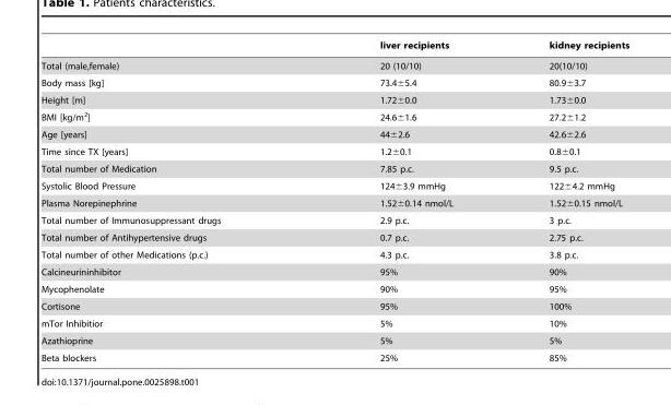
<table><thead><tr><td></td><td>liver recipients</td><td>kidney recipients</td></tr></thead><tbody><tr><td>Total (male,female)</td><td>20 (10/10)</td><td>20(10/10)</td></tr><tr><td>Body mass [kg]</td><td>73.4±5.4</td><td>80.9±3.7</td></tr><tr><td>Height [m]</td><td>1.72±0.0</td><td>1.73±0.0</td></tr><tr><td>BMI [kg/m<sup>2</sup>]</td><td>24.6±1.6</td><td>27.2±1.2</td></tr><tr><td>Age [years]</td><td>44±2.6</td><td>42.6±2.6</td></tr><tr><td>Time since TX [years]</td><td>1.2±0.1</td><td>0.8±0.1</td></tr><tr><td>Total number of Medication</td><td>7.85 p.c.</td><td>9.5 p.c.</td></tr><tr><td>Systolic Blood Pressure</td><td>124±3.9 mmHg</td><td>122±4.2 mmHg</td></tr><tr><td>Plasma Norepinephrine</td><td>1.52±0.14 nmol/L</td><td>1.52±0.15 nmol/L</td></tr><tr><td>Total number of Immunosuppressant drugs</td><td>2.9 p.c.</td><td>3 p.c.</td></tr><tr><td>Total number of Antihypertensive drugs</td><td>0.7 p.c.</td><td>2.75 p.c.</td></tr><tr><td>Total number of other Medications (p.c.)</td><td>4.3 p.c.</td><td>3.8 p.c.</td></tr><tr><td>Calcineurininhibitor</td><td>95%</td><td>90%</td></tr><tr><td>Mycophenolate</td><td>90%</td><td>95%</td></tr><tr><td>Cortisone</td><td>95%</td><td>100%</td></tr><tr><td>mTor Inhibitior</td><td>5%</td><td>10%</td></tr><tr><td>Azathioprine</td><td>5%</td><td>5%</td></tr><tr><td>Beta blockers</td><td>25%</td><td>85%</td></tr></tbody></table>